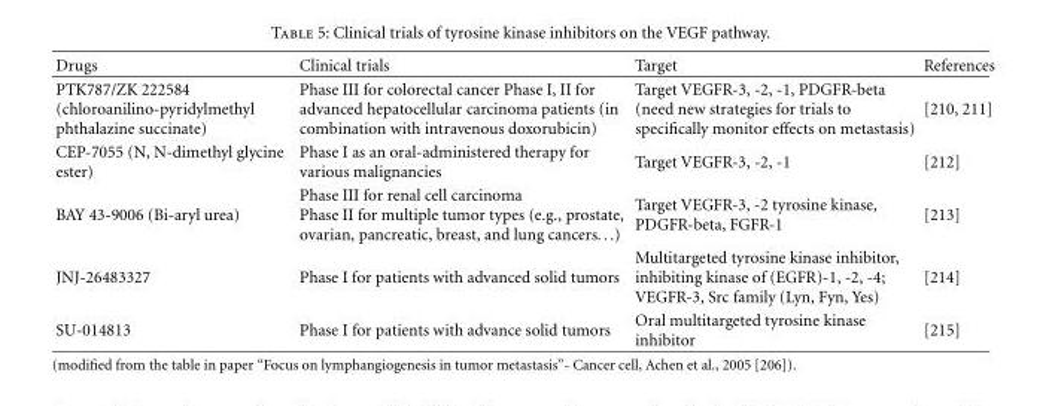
<table><thead><tr><td>Drugs</td><td>Clinical trials</td><td>Target</td><td>References</td></tr></thead><tbody><tr><td>PTK787/ZK 222584 (chloroanilino-pyridylmethyl phthalazine succinate)</td><td>Phase III for colorectal cancer Phase I, II for advanced hepatocellular carcinoma patients (in combination with intravenous doxorubicin)</td><td>Target VEGFR-3, -2, -1, PDGFR-beta (need new strategies for trials to specifically monitor effects on metastasis)</td><td>[210, 211]</td></tr><tr><td>CEP-7055 (N, N-dimethyl glycine ester)</td><td>Phase I as an oral-administered therapy for various malignancies</td><td>Target VEGFR-3, -2, -1</td><td>[212]</td></tr><tr><td>BAY 43-9006 (Bi-aryl urea)</td><td>Phase III for renal cell carcinoma Phase II for multiple tumor types (e.g., prostate, ovarian, pancreatic, breast, and lung cancers...)</td><td>Target VEGFR-3, -2 tyrosine kinase, PDGFR-beta, FGFR-1</td><td>[213]</td></tr><tr><td>JNJ-26483327</td><td>Phase I for patients with advanced solid tumors</td><td>Multitargeted tyrosine kinase inhibitor, inhibiting kinase of (EGFR)-1, -2, -4; VEGFR-3, Src family (Lyn, Fyn, Yes)</td><td>[214]</td></tr><tr><td>SU-014813</td><td>Phase I for patients with advance solid tumors</td><td>Oral multitargeted tyrosine kinase inhibitor</td><td>[215]</td></tr></tbody></table>